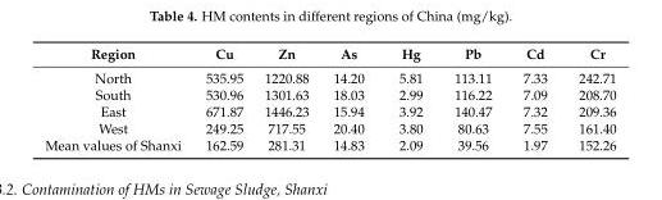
<table><thead><tr><td>Region</td><td>Cu</td><td>Zn</td><td>As</td><td>Hg</td><td>Pb</td><td>Cd</td><td>Cr</td></tr></thead><tbody><tr><td>North</td><td>535.95</td><td>1220.88</td><td>14.20</td><td>5.81</td><td>113.11</td><td>7.33</td><td>242.71</td></tr><tr><td>South</td><td>530.96</td><td>1301.63</td><td>18.03</td><td>2.99</td><td>116.22</td><td>7.09</td><td>208.70</td></tr><tr><td>East</td><td>671.87</td><td>1446.23</td><td>15.94</td><td>3.92</td><td>140.47</td><td>7.32</td><td>209.36</td></tr><tr><td>West</td><td>249.25</td><td>717.55</td><td>20.40</td><td>3.80</td><td>80.63</td><td>7.55</td><td>161.40</td></tr><tr><td>Mean values of Shanxi</td><td>162.59</td><td>281.31</td><td>14.83</td><td>2.09</td><td>39.56</td><td>1.97</td><td>152.26</td></tr></tbody></table>